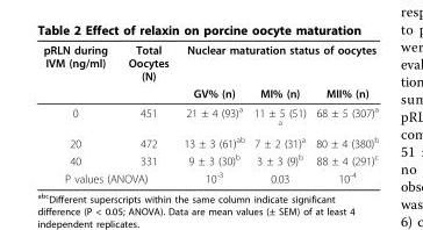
<table><thead><tr><td rowspan="2">pRLN during IVM (ng/ml)</td><td rowspan="2">Total Oocytes (N)</td><td colspan="3">Nuclear maturation status of oocytes</td></tr><tr><td>GV% (n)</td><td>MI% (n)</td><td>MII% (n)</td></tr></thead><tbody><tr><td>0</td><td>451</td><td>21 ± 4 (93)<sup>a</sup></td><td>11 ± 5 (51) <sup>a</sup></td><td>68 ± 5 (307)<sup>a</sup></td></tr><tr><td>20</td><td>472</td><td>13 ± 3 (61)<sup>ab</sup></td><td>7 ± 2 (31)<sup>a</sup></td><td>80 ± 4 (380)<sup>b</sup></td></tr><tr><td>40</td><td>331</td><td>9 ± 3 (30)<sup>b</sup></td><td>3 ± 3 (9)<sup>b</sup></td><td>88 ± 4 (291)<sup>c</sup></td></tr><tr><td colspan="2">P values (ANOVA)</td><td>10<sup>-3</sup></td><td>0.03</td><td>10<sup>-4</sup></td></tr></tbody></table>